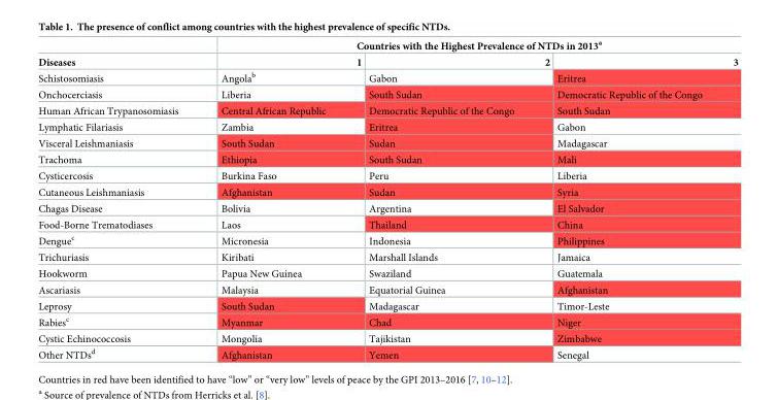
<table><thead><tr><td rowspan="2">Diseases</td><td colspan="3">Countries with the Highest Prevalence of NTDs in 2013<sup>a</sup></td></tr><tr><td>1</td><td>2</td><td>3</td></tr></thead><tbody><tr><td>Schistosomiasis</td><td>Angola<sup>b</sup></td><td>Gabon</td><td>Eritrea</td></tr><tr><td>Onchocerciasis</td><td>Liberia</td><td>South Sudan</td><td>Democratic Republic of the Congo</td></tr><tr><td>Human African Trypanosomiasis</td><td>Central African Republic</td><td>Democratic Republic of the Congo</td><td>South Sudan</td></tr><tr><td>Lymphatic Filariasis</td><td>Zambia</td><td>Eritrea</td><td>Gabon</td></tr><tr><td>Visceral Leishmaniasis</td><td>South Sudan</td><td>Sudan</td><td>Madagascar</td></tr><tr><td>Trachoma</td><td>Ethiopia</td><td>South Sudan</td><td>Mali</td></tr><tr><td>Cysticercosis</td><td>Burkina Faso</td><td>Peru</td><td>Liberia</td></tr><tr><td>Cutaneous Leishmaniasis</td><td>Afghanistan</td><td>Sudan</td><td>Syria</td></tr><tr><td>Chagas Disease</td><td>Bolivia</td><td>Argentina</td><td>El Salvador</td></tr><tr><td>Food-Borne Trematodiases</td><td>Laos</td><td>Thailand</td><td>China</td></tr><tr><td>Dengue<sup>c</sup></td><td>Micronesia</td><td>Indonesia</td><td>Philippines</td></tr><tr><td>Trichuriasis</td><td>Kiribati</td><td>Marshall Islands</td><td>Jamaica</td></tr><tr><td>Hookworm</td><td>Papua New Guinea</td><td>Swaziland</td><td>Guatemala</td></tr><tr><td>Ascariasis</td><td>Malaysia</td><td>Equatorial Guinea</td><td>Afghanistan</td></tr><tr><td>Leprosy</td><td>South Sudan</td><td>Madagascar</td><td>Timor-Leste</td></tr><tr><td>Rabies<sup>c</sup></td><td>Myanmar</td><td>Chad</td><td>Niger</td></tr><tr><td>Cystic Echinococcosis</td><td>Mongolia</td><td>Tajikistan</td><td>Zimbabwe</td></tr><tr><td>Other NTDs<sup>d</sup></td><td>Afghanistan</td><td>Yemen</td><td>Senegal</td></tr></tbody></table>